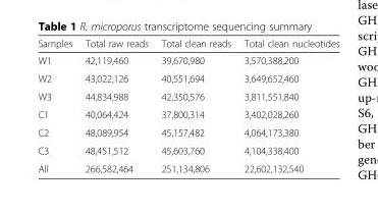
<table><thead><tr><td>Samples</td><td>Total raw reads</td><td>Total clean reads</td><td>Total clean nucleotides</td></tr></thead><tbody><tr><td>W1</td><td>42,119,460</td><td>39,670,980</td><td>3,570,388,200</td></tr><tr><td>W2</td><td>43,022,126</td><td>40,551,694</td><td>3,649,652,460</td></tr><tr><td>W3</td><td>44,834,988</td><td>42,350,576</td><td>3,811,551,840</td></tr><tr><td>C1</td><td>40,064,424</td><td>37,800,314</td><td>3,402,028,260</td></tr><tr><td>C2</td><td>48,089,954</td><td>45,157,482</td><td>4,064,173,380</td></tr><tr><td>C3</td><td>48,451,512</td><td>45,603,760</td><td>4,104,338,400</td></tr><tr><td>All</td><td>266,582,464</td><td>251,134,806</td><td>22,602,132,540</td></tr></tbody></table>